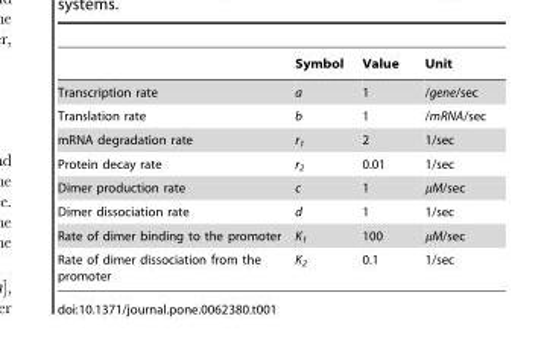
<table><thead><tr><td></td><td>Symbol</td><td>Value</td><td>Unit</td></tr></thead><tbody><tr><td>Transcription rate</td><td>a</td><td>1</td><td>/gene/sec</td></tr><tr><td>Translation rate</td><td>b</td><td>1</td><td>/mRNA/sec</td></tr><tr><td>mRNA degradation rate</td><td>r<sub>1</sub></td><td>2</td><td>1/sec</td></tr><tr><td>Protein decay rate</td><td>r<sub>2</sub></td><td>0.01</td><td>1/sec</td></tr><tr><td>Dimer production rate</td><td>c</td><td>1</td><td>µM/sec</td></tr><tr><td>Dimer dissociation rate</td><td>d</td><td>1</td><td>1/sec</td></tr><tr><td>Rate of dimer binding to the promoter</td><td>K<sub>1</sub></td><td>100</td><td>µM/sec</td></tr><tr><td>Rate of dimer dissociation from the promoter</td><td>K<sub>2</sub></td><td>0.1</td><td>1/sec</td></tr></tbody></table>